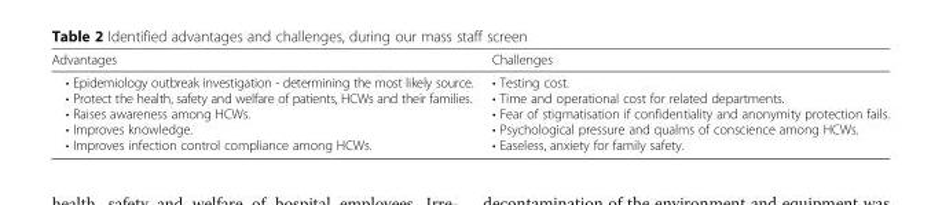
<table><thead><tr><td>Advantages</td><td>Challenges</td></tr></thead><tbody><tr><td>• Epidemiology outbreak investigation - determining the most likely source. • Protect the health, safety and welfare of patients, HCWs and their families. • Raises awareness among HCWs. • Improves knowledge. • Improves infection control compliance among HCWs.</td><td>• Testing cost. • Time and operational cost for related departments. • Fear of stigmatisation if confidentiality and anonymity protection fails. • Psychological pressure and qualms of conscience among HCWs. • Easeless, anxiety for family safety.</td></tr></tbody></table>